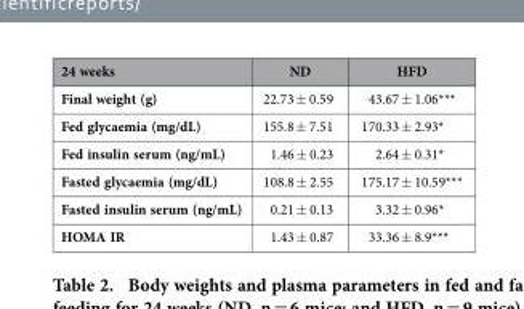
<table><thead><tr><td>24 weeks</td><td>ND</td><td>HFD</td></tr></thead><tbody><tr><td>Final weight (g)</td><td>22.73 ± 0.59</td><td>43.67 ± 1.06***</td></tr><tr><td>Fed glycaemia (mg/dL)</td><td>155.8 ± 7.51</td><td>170.33 ± 2.93*</td></tr><tr><td>Fed insulin serum (ng/mL)</td><td>1.46 ± 0.23</td><td>2.64 ± 0.31*</td></tr><tr><td>Fasted glycaemia (mg/dL)</td><td>108.8 ± 2.55</td><td>175.17 ± 10.59***</td></tr><tr><td>Fasted insulin serum (ng/mL)</td><td>0.21 ± 0.13</td><td>3.32 ± 0.96*</td></tr><tr><td>HOMA IR</td><td>1.43 ± 0.87</td><td>33.36 ± 8.9***</td></tr></tbody></table>